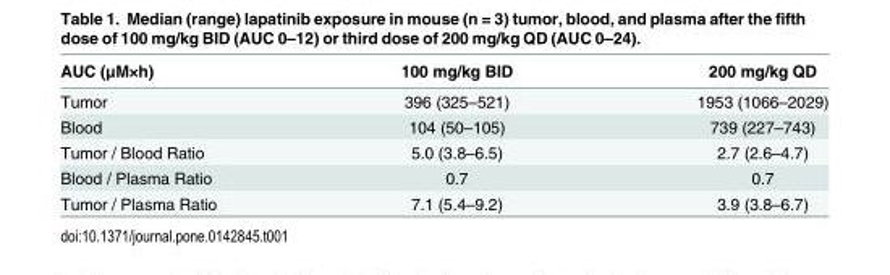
<table><thead><tr><td>AUC (μM×h)</td><td>100 mg/kg BID</td><td>200 mg/kg QD</td></tr></thead><tbody><tr><td>Tumor</td><td>396 (325–521)</td><td>1953 (1066–2029)</td></tr><tr><td>Blood</td><td>104 (50–105)</td><td>739 (227–743)</td></tr><tr><td>Tumor / Blood Ratio</td><td>5.0 (3.8–6.5)</td><td>2.7 (2.6–4.7)</td></tr><tr><td>Blood / Plasma Ratio</td><td>0.7</td><td>0.7</td></tr><tr><td>Tumor / Plasma Ratio</td><td>7.1 (5.4–9.2)</td><td>3.9 (3.8–6.7)</td></tr></tbody></table>